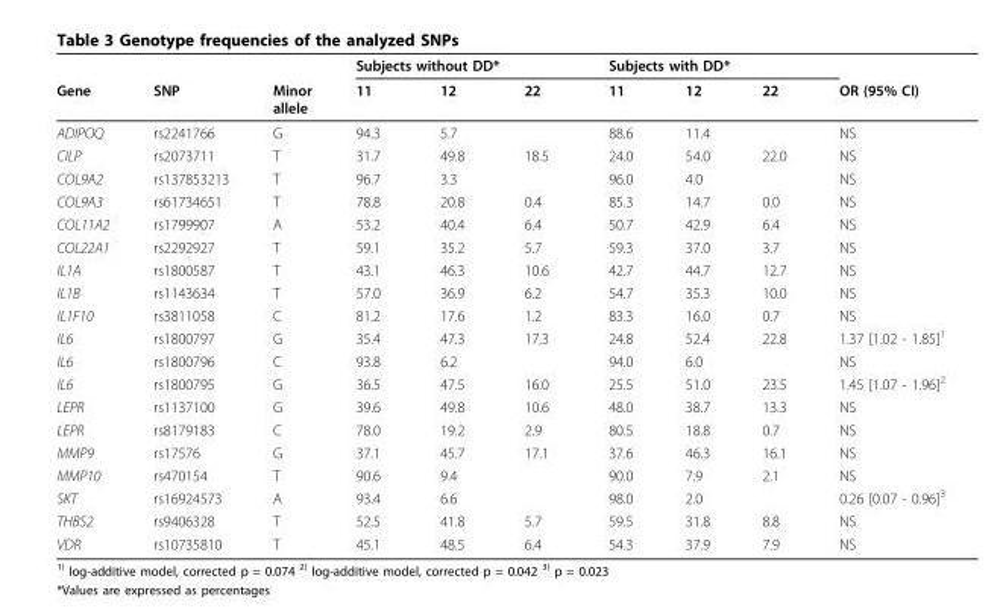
<table><thead><tr><td rowspan="2">Gene</td><td rowspan="2">SNP</td><td rowspan="2">Minor allele</td><td colspan="3">Subjects without DD*</td><td colspan="3">Subjects with DD*</td><td rowspan="2">OR (95% CI)</td></tr><tr><td>11</td><td>12</td><td>22</td><td>11</td><td>12</td><td>22</td></tr></thead><tbody><tr><td>ADIPOQ</td><td>rs2241766</td><td>G</td><td>94.3</td><td>5.7</td><td></td><td>88.6</td><td>11.4</td><td></td><td>NS</td></tr><tr><td>CILP</td><td>rs2073711</td><td>T</td><td>31.7</td><td>49.8</td><td>18.5</td><td>24.0</td><td>54.0</td><td>22.0</td><td>NS</td></tr><tr><td>COL9A2</td><td>rs137853213</td><td>T</td><td>96.7</td><td>3.3</td><td></td><td>96.0</td><td>4.0</td><td></td><td>NS</td></tr><tr><td>COL9A3</td><td>rs61734651</td><td>T</td><td>78.8</td><td>20.8</td><td>0.4</td><td>85.3</td><td>14.7</td><td>0.0</td><td>NS</td></tr><tr><td>COL11A2</td><td>rs1799907</td><td>A</td><td>53.2</td><td>40.4</td><td>6.4</td><td>50.7</td><td>42.9</td><td>6.4</td><td>NS</td></tr><tr><td>COL22A1</td><td>rs2292927</td><td>T</td><td>59.1</td><td>35.2</td><td>5.7</td><td>59.3</td><td>37.0</td><td>3.7</td><td>NS</td></tr><tr><td>IL1A</td><td>rs1800587</td><td>T</td><td>43.1</td><td>46.3</td><td>10.6</td><td>42.7</td><td>44.7</td><td>12.7</td><td>NS</td></tr><tr><td>IL1B</td><td>rs1143634</td><td>T</td><td>57.0</td><td>36.9</td><td>6.2</td><td>54.7</td><td>35.3</td><td>10.0</td><td>NS</td></tr><tr><td>IL1F10</td><td>rs3811058</td><td>C</td><td>81.2</td><td>17.6</td><td>1.2</td><td>83.3</td><td>16.0</td><td>0.7</td><td>NS</td></tr><tr><td>IL6</td><td>rs1800797</td><td>G</td><td>35.4</td><td>47.3</td><td>17.3</td><td>24.8</td><td>52.4</td><td>22.8</td><td>1.37 [1.02 - 1.85]<sup>1</sup></td></tr><tr><td>IL6</td><td>rs1800796</td><td>C</td><td>93.8</td><td>6.2</td><td></td><td>94.0</td><td>6.0</td><td></td><td>NS</td></tr><tr><td>IL6</td><td>rs1800795</td><td>G</td><td>36.5</td><td>47.5</td><td>16.0</td><td>25.5</td><td>51.0</td><td>23.5</td><td>1.45 [1.07 - 1.96]<sup>2</sup></td></tr><tr><td>LEPR</td><td>rs1137100</td><td>G</td><td>39.6</td><td>49.8</td><td>10.6</td><td>48.0</td><td>38.7</td><td>13.3</td><td>NS</td></tr><tr><td>LEPR</td><td>rs8179183</td><td>C</td><td>78.0</td><td>19.2</td><td>2.9</td><td>80.5</td><td>18.8</td><td>0.7</td><td>NS</td></tr><tr><td>MMP9</td><td>rs17576</td><td>G</td><td>37.1</td><td>45.7</td><td>17.1</td><td>37.6</td><td>46.3</td><td>16.1</td><td>NS</td></tr><tr><td>MMP10</td><td>rs470154</td><td>T</td><td>90.6</td><td>9.4</td><td></td><td>90.0</td><td>7.9</td><td>2.1</td><td>NS</td></tr><tr><td>SKT</td><td>rs16924573</td><td>A</td><td>93.4</td><td>6.6</td><td></td><td>98.0</td><td>2.0</td><td></td><td>0.26 [0.07 - 0.96]<sup>3</sup></td></tr><tr><td>THBS2</td><td>rs9406328</td><td>T</td><td>52.5</td><td>41.8</td><td>5.7</td><td>59.5</td><td>31.8</td><td>8.8</td><td>NS</td></tr><tr><td>VDR</td><td>rs10735810</td><td>T</td><td>45.1</td><td>48.5</td><td>6.4</td><td>54.3</td><td>37.9</td><td>7.9</td><td>NS</td></tr></tbody></table>